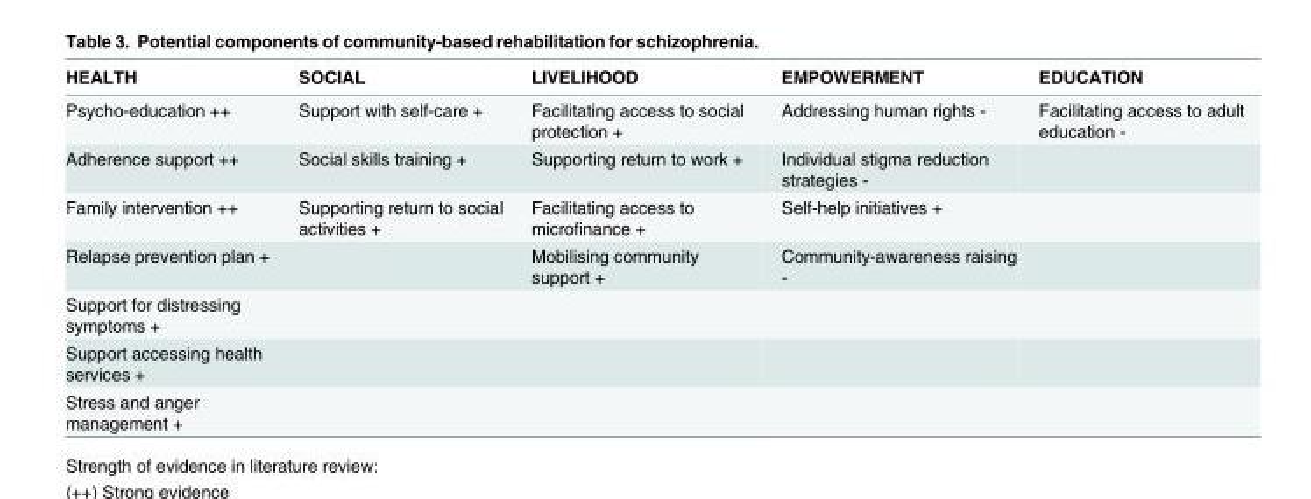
<table><thead><tr><td>HEALTH</td><td>SOCIAL</td><td>LIVELIHOOD</td><td>EMPOWERMENT</td><td>EDUCATION</td></tr></thead><tbody><tr><td>Psycho-education ++</td><td>Support with self-care +</td><td>Facilitating access to social protection +</td><td>Addressing human rights -</td><td>Facilitating access to adult education -</td></tr><tr><td>Adherence support ++</td><td>Social skills training +</td><td>Supporting return to work +</td><td>Individual stigma reduction strategies -</td><td></td></tr><tr><td>Family intervention ++</td><td>Supporting return to social activities +</td><td>Facilitating access to microfinance +</td><td>Self-help initiatives +</td><td></td></tr><tr><td>Relapse prevention plan +</td><td></td><td>Mobilising community support +</td><td>Community-awareness raising -</td><td></td></tr><tr><td colspan="5">Support for distressing symptoms +</td></tr><tr><td colspan="5">Support accessing health services +</td></tr><tr><td>Stress and anger management +</td><td></td><td></td><td></td><td></td></tr></tbody></table>